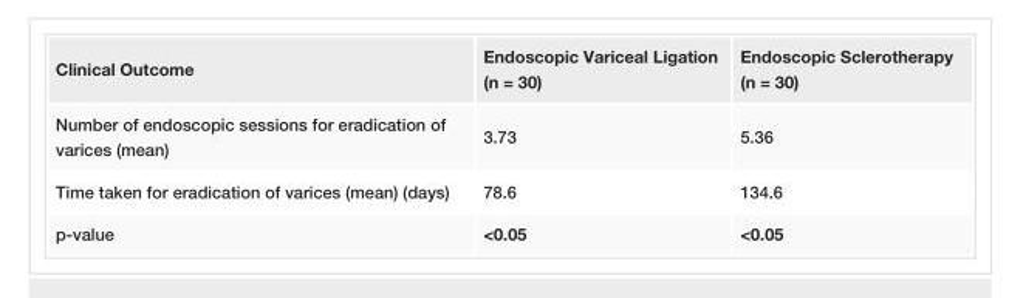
<table><tbody><tr><td>Clinical Outcome</td><td>Endoscopic Variceal Ligation (n = 30)</td><td>Endoscopic Sclerotherapy (n = 30)</td></tr><tr><td>Number of endoscopic sessions for eradication of varices (mean)</td><td>3.73</td><td>5.36</td></tr><tr><td>Time taken for eradication of varices (mean) (days)</td><td>78.6</td><td>134.6</td></tr><tr><td>p-value</td><td>&lt;0.05</td><td>&lt;0.05</td></tr></tbody></table>